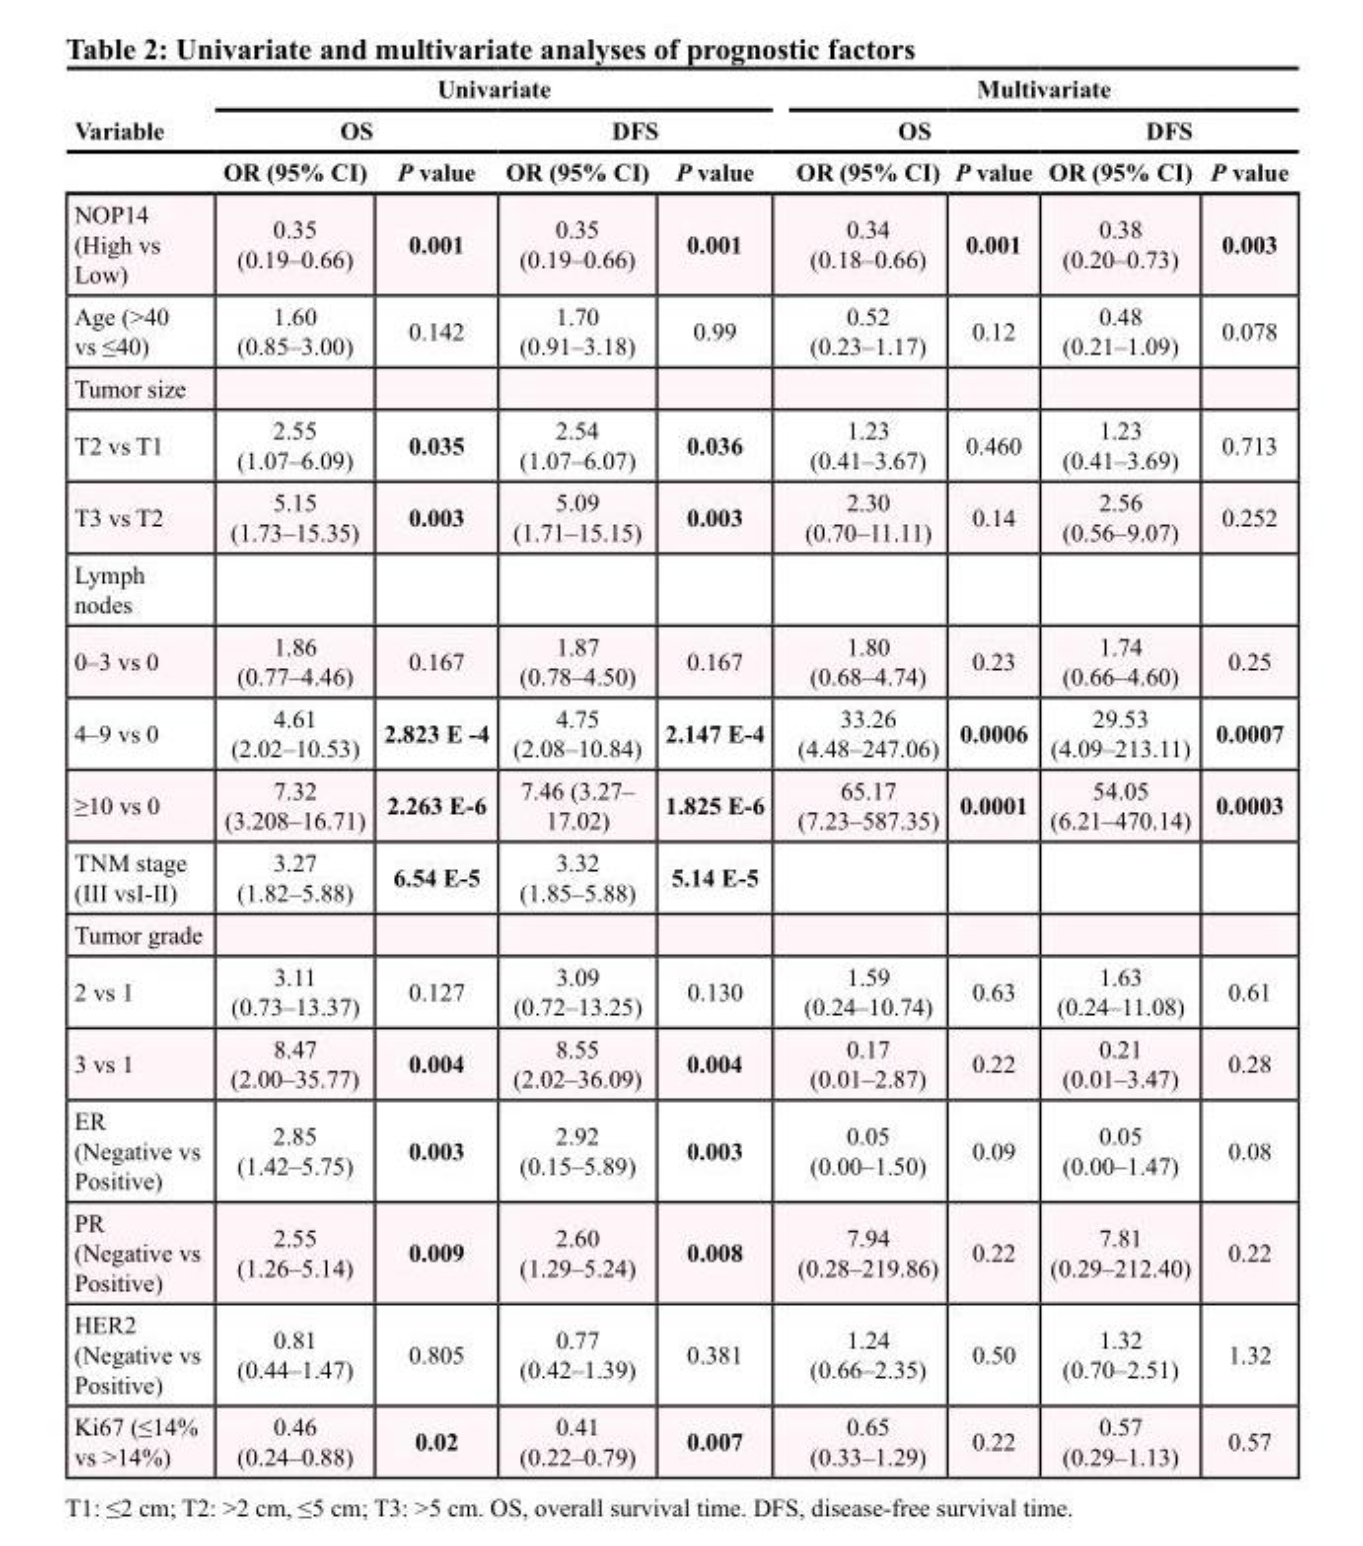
<table><thead><tr><td rowspan="3">Variable</td><td colspan="4">Univariate</td><td colspan="4">Multivariate</td></tr><tr><td colspan="2">OS</td><td colspan="2">DFS</td><td colspan="2">OS</td><td colspan="2">DFS</td></tr><tr><td>OR (95% CI)</td><td>P value</td><td>OR (95% CI)</td><td>P value</td><td>OR (95% CI)</td><td>P value</td><td>OR (95% CI)</td><td>P value</td></tr></thead><tbody><tr><td>NOP14 (High vs Low)</td><td>0.35 (0.19–0.66)</td><td>0.001</td><td>0.35 (0.19–0.66)</td><td>0.001</td><td>0.34 (0.18–0.66)</td><td>0.001</td><td>0.38 (0.20–0.73)</td><td>0.003</td></tr><tr><td>Age (&gt;40 vs ≤40)</td><td>1.60 (0.85–3.00)</td><td>0.142</td><td>1.70 (0.91–3.18)</td><td>0.99</td><td>0.52 (0.23–1.17)</td><td>0.12</td><td>0.48 (0.21–1.09)</td><td>0.078</td></tr><tr><td colspan="9">Tumor size</td></tr><tr><td>T2 vs T1</td><td>2.55 (1.07–6.09)</td><td>0.035</td><td>2.54 (1.07–6.07)</td><td>0.036</td><td>1.23 (0.41–3.67)</td><td>0.460</td><td>1.23 (0.41–3.69)</td><td>0.713</td></tr><tr><td>T3 vs T2</td><td>5.15 (1.73–15.35)</td><td>0.003</td><td>5.09 (1.71–15.15)</td><td>0.003</td><td>2.30 (0.70–11.11)</td><td>0.14</td><td>2.56 (0.56–9.07)</td><td>0.252</td></tr><tr><td colspan="9">Lymph nodes</td></tr><tr><td>0–3 vs 0</td><td>1.86 (0.77–4.46)</td><td>0.167</td><td>1.87 (0.78–4.50)</td><td>0.167</td><td>1.80 (0.68–4.74)</td><td>0.23</td><td>1.74 (0.66–4.60)</td><td>0.25</td></tr><tr><td>4–9 vs 0</td><td>4.61 (2.02–10.53)</td><td>2.823 E -4</td><td>4.75 (2.08–10.84)</td><td>2.147 E-4</td><td>33.26 (4.48–247.06)</td><td>0.0006</td><td>29.53 (4.09–213.11)</td><td>0.0007</td></tr><tr><td>≥10 vs 0</td><td>7.32 (3.208–16.71)</td><td>2.263 E-6</td><td>7.46 (3.27– 17.02)</td><td>1.825 E-6</td><td>65.17 (7.23–587.35)</td><td>0.0001</td><td>54.05 (6.21–470.14)</td><td>0.0003</td></tr><tr><td>TNM stage (III vsI-II)</td><td>3.27 (1.82–5.88)</td><td>6.54 E-5</td><td>3.32 (1.85–5.88)</td><td>5.14 E-5</td><td></td><td></td><td></td><td></td></tr><tr><td colspan="9">Tumor grade</td></tr><tr><td>2 vs 1</td><td>3.11 (0.73–13.37)</td><td>0.127</td><td>3.09 (0.72–13.25)</td><td>0.130</td><td>1.59 (0.24–10.74)</td><td>0.63</td><td>1.63 (0.24–11.08)</td><td>0.61</td></tr><tr><td>3 vs 1</td><td>8.47 (2.00–35.77)</td><td>0.004</td><td>8.55 (2.02–36.09)</td><td>0.004</td><td>0.17 (0.01–2.87)</td><td>0.22</td><td>0.21 (0.01–3.47)</td><td>0.28</td></tr><tr><td>ER (Negative vs Positive)</td><td>2.85 (1.42–5.75)</td><td>0.003</td><td>2.92 (0.15–5.89)</td><td>0.003</td><td>0.05 (0.00–1.50)</td><td>0.09</td><td>0.05 (0.00–1.47)</td><td>0.08</td></tr><tr><td>PR (Negative vs Positive)</td><td>2.55 (1.26–5.14)</td><td>0.009</td><td>2.60 (1.29–5.24)</td><td>0.008</td><td>7.94 (0.28–219.86)</td><td>0.22</td><td>7.81 (0.29–212.40)</td><td>0.22</td></tr><tr><td>HER2 (Negative vs Positive)</td><td>0.81 (0.44–1.47)</td><td>0.805</td><td>0.77 (0.42–1.39)</td><td>0.381</td><td>1.24 (0.66–2.35)</td><td>0.50</td><td>1.32 (0.70–2.51)</td><td>1.32</td></tr><tr><td>Ki67 (≤14% vs &gt;14%)</td><td>0.46 (0.24–0.88)</td><td>0.02</td><td>0.41 (0.22–0.79)</td><td>0.007</td><td>0.65 (0.33–1.29)</td><td>0.22</td><td>0.57 (0.29–1.13)</td><td>0.57</td></tr></tbody></table>